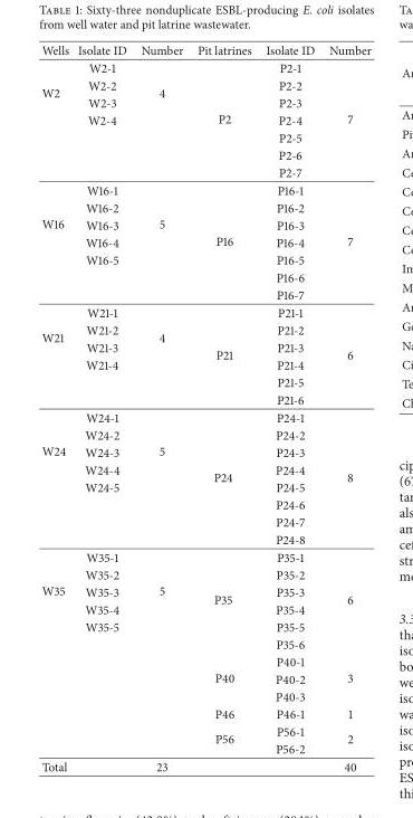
<table><thead><tr><td>Wells</td><td>Isolate ID</td><td>Number</td><td>Pit latrines</td><td>Isolate ID</td><td>Number</td></tr></thead><tbody><tr><td rowspan="7">W2</td><td>W2-1</td><td rowspan="4">4</td><td rowspan="7">P2</td><td>P2-1</td><td rowspan="7">7</td></tr><tr><td>W2-2</td><td>P2-2</td></tr><tr><td>W2-3</td><td>P2-3</td></tr><tr><td>W2-4</td><td>P2-4</td></tr><tr><td></td><td></td><td>P2-5</td></tr><tr><td></td><td></td><td>P2-6</td></tr><tr><td></td><td></td><td>P2-7</td></tr><tr><td rowspan="7">W16</td><td>W16-1</td><td rowspan="5">5</td><td rowspan="7">P16</td><td>P16-1</td><td rowspan="7">7</td></tr><tr><td>W16-2</td><td>P16-2</td></tr><tr><td>W16-3</td><td>P16-3</td></tr><tr><td>W16-4</td><td>P16-4</td></tr><tr><td>W16-5</td><td>P16-5</td></tr><tr><td></td><td></td><td>P16-6</td></tr><tr><td></td><td></td><td>P16-7</td></tr><tr><td rowspan="6">W21</td><td>W21-1</td><td rowspan="4">4</td><td rowspan="6">P21</td><td>P21-1</td><td rowspan="6">6</td></tr><tr><td>W21-2</td><td>P21-2</td></tr><tr><td>W21-3</td><td>P21-3</td></tr><tr><td>W21-4</td><td>P21-4</td></tr><tr><td></td><td></td><td>P21-5</td></tr><tr><td></td><td></td><td>P21-6</td></tr><tr><td rowspan="8">W24</td><td>W24-1</td><td rowspan="5">5</td><td rowspan="8">P24</td><td>P24-1</td><td rowspan="8">8</td></tr><tr><td>W24-2</td><td>P24-2</td></tr><tr><td>W24-3</td><td>P24-3</td></tr><tr><td>W24-4</td><td>P24-4</td></tr><tr><td>W24-5</td><td>P24-5</td></tr><tr><td></td><td></td><td>P24-6</td></tr><tr><td></td><td></td><td>P24-7</td></tr><tr><td></td><td></td><td>P24-8</td></tr><tr><td rowspan="12">W35</td><td>W35-1</td><td rowspan="5">5</td><td rowspan="6">P35</td><td>P35-1</td><td rowspan="6">6</td></tr><tr><td>W35-2</td><td>P35-2</td></tr><tr><td>W35-3</td><td>P35-3</td></tr><tr><td>W35-4</td><td>P35-4</td></tr><tr><td>W35-5</td><td>P35-5</td></tr><tr><td></td><td></td><td>P35-6</td></tr><tr><td></td><td></td><td rowspan="3">P40</td><td>P40-1</td><td rowspan="3">3</td></tr><tr><td></td><td></td><td>P40-2</td></tr><tr><td></td><td></td><td>P40-3</td></tr><tr><td></td><td></td><td>P46</td><td>P46-1</td><td>1</td></tr><tr><td></td><td></td><td rowspan="2">P56</td><td>P56-1</td><td rowspan="2">2</td></tr><tr><td></td><td></td><td>P56-2</td></tr><tr><td>Total</td><td></td><td>23</td><td></td><td></td><td>40</td></tr></tbody></table>